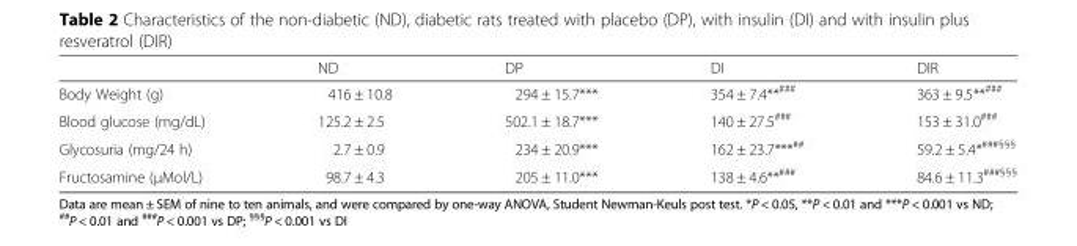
<table><thead><tr><td></td><td>ND</td><td>DP</td><td>DI</td><td>DIR</td></tr></thead><tbody><tr><td>Body Weight (g)</td><td>416 ± 10.8</td><td>294 ± 15.7***</td><td>354 ± 7.4**<sup>###</sup></td><td>363 ± 9.5**<sup>###</sup></td></tr><tr><td>Blood glucose (mg/dL)</td><td>125.2 ± 2.5</td><td>502.1 ± 18.7***</td><td>140 ± 27.5<sup>###</sup></td><td>153 ± 31.0<sup>###</sup></td></tr><tr><td>Glycosuria (mg/24 h)</td><td>2.7 ± 0.9</td><td>234 ± 20.9***</td><td>162 ± 23.7***<sup>##</sup></td><td>59.2 ± 5.4*<sup>###§§§</sup></td></tr><tr><td>Fructosamine (μMol/L)</td><td>98.7 ± 4.3</td><td>205 ± 11.0***</td><td>138 ± 4.6**<sup>###</sup></td><td>84.6 ± 11.3<sup>###§§§</sup></td></tr></tbody></table>